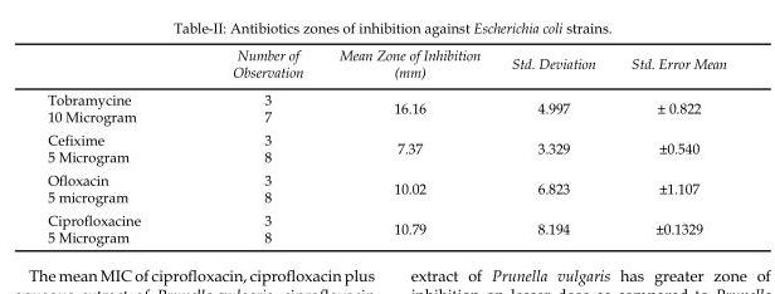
<table><thead><tr><td></td><td>Number of Observation</td><td>Mean Zone of Inhibition (mm)</td><td>Std. Deviation</td><td>Std. Error Mean</td></tr></thead><tbody><tr><td>Tobramycine 10 Microgram</td><td>3 7</td><td>16.16</td><td>4.997</td><td>± 0.822</td></tr><tr><td>Cefixime 5 Microgram</td><td>3 8</td><td>7.37</td><td>3.329</td><td>±0.540</td></tr><tr><td>Ofloxacin 5 microgram</td><td>3 8</td><td>10.02</td><td>6.823</td><td>±1.107</td></tr><tr><td>Ciprofloxacine 5 Microgram</td><td>3 8</td><td>10.79</td><td>8.194</td><td>±0.1329</td></tr></tbody></table>